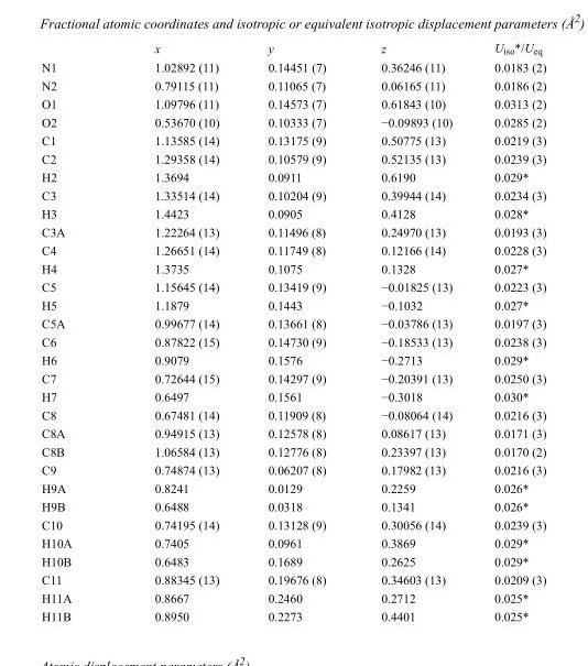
<table><thead><tr><td></td><td>x</td><td>y</td><td>z</td><td>U<sub>iso</sub>*/U<sub>eq</sub></td></tr></thead><tbody><tr><td>N1</td><td>1.02892 (11)</td><td>0.14451 (7)</td><td>0.36246 (11)</td><td>0.0183 (2)</td></tr><tr><td>N2</td><td>0.79115 (11)</td><td>0.11065 (7)</td><td>0.06165 (11)</td><td>0.0186 (2)</td></tr><tr><td>O1</td><td>1.09796 (11)</td><td>0.14573 (7)</td><td>0.61843 (10)</td><td>0.0313 (2)</td></tr><tr><td>O2</td><td>0.53670 (10)</td><td>0.10333 (7)</td><td>−0.09893 (10)</td><td>0.0285 (2)</td></tr><tr><td>C1</td><td>1.13585 (14)</td><td>0.13175 (9)</td><td>0.50775 (13)</td><td>0.0219 (3)</td></tr><tr><td>C2</td><td>1.29358 (14)</td><td>0.10579 (9)</td><td>0.52135 (13)</td><td>0.0239 (3)</td></tr><tr><td>H2</td><td>1.3694</td><td>0.0911</td><td>0.6190</td><td>0.029*</td></tr><tr><td>C3</td><td>1.33514 (14)</td><td>0.10204 (9)</td><td>0.39944 (14)</td><td>0.0234 (3)</td></tr><tr><td>H3</td><td>1.4423</td><td>0.0905</td><td>0.4128</td><td>0.028*</td></tr><tr><td>C3A</td><td>1.22264 (13)</td><td>0.11496 (8)</td><td>0.24970 (13)</td><td>0.0193 (3)</td></tr><tr><td>C4</td><td>1.26651 (14)</td><td>0.11749 (8)</td><td>0.12166 (14)</td><td>0.0228 (3)</td></tr><tr><td>H4</td><td>1.3735</td><td>0.1075</td><td>0.1328</td><td>0.027*</td></tr><tr><td>C5</td><td>1.15645 (14)</td><td>0.13419 (9)</td><td>−0.01825 (13)</td><td>0.0223 (3)</td></tr><tr><td>H5</td><td>1.1879</td><td>0.1443</td><td>−0.1032</td><td>0.027*</td></tr><tr><td>C5A</td><td>0.99677 (14)</td><td>0.13661 (8)</td><td>−0.03786 (13)</td><td>0.0197 (3)</td></tr><tr><td>C6</td><td>0.87822 (15)</td><td>0.14730 (9)</td><td>−0.18533 (13)</td><td>0.0238 (3)</td></tr><tr><td>H6</td><td>0.9079</td><td>0.1576</td><td>−0.2713</td><td>0.029*</td></tr><tr><td>C7</td><td>0.72644 (15)</td><td>0.14297 (9)</td><td>−0.20391 (13)</td><td>0.0250 (3)</td></tr><tr><td>H7</td><td>0.6497</td><td>0.1561</td><td>−0.3018</td><td>0.030*</td></tr><tr><td>C8</td><td>0.67481 (14)</td><td>0.11909 (8)</td><td>−0.08064 (14)</td><td>0.0216 (3)</td></tr><tr><td>C8A</td><td>0.94915 (13)</td><td>0.12578 (8)</td><td>0.08617 (13)</td><td>0.0171 (3)</td></tr><tr><td>C8B</td><td>1.06584 (13)</td><td>0.12776 (8)</td><td>0.23397 (13)</td><td>0.0170 (2)</td></tr><tr><td>C9</td><td>0.74874 (13)</td><td>0.06207 (8)</td><td>0.17982 (13)</td><td>0.0216 (3)</td></tr><tr><td>H9A</td><td>0.8241</td><td>0.0129</td><td>0.2259</td><td>0.026*</td></tr><tr><td>H9B</td><td>0.6488</td><td>0.0318</td><td>0.1341</td><td>0.026*</td></tr><tr><td>C10</td><td>0.74195 (14)</td><td>0.13128 (9)</td><td>0.30056 (14)</td><td>0.0239 (3)</td></tr><tr><td>H10A</td><td>0.7405</td><td>0.0961</td><td>0.3869</td><td>0.029*</td></tr><tr><td>H10B</td><td>0.6483</td><td>0.1689</td><td>0.2625</td><td>0.029*</td></tr><tr><td>C11</td><td>0.88345 (13)</td><td>0.19676 (8)</td><td>0.34603 (13)</td><td>0.0209 (3)</td></tr><tr><td>H11A</td><td>0.8667</td><td>0.2460</td><td>0.2712</td><td>0.025*</td></tr><tr><td>H11B</td><td>0.8950</td><td>0.2273</td><td>0.4401</td><td>0.025*</td></tr></tbody></table>